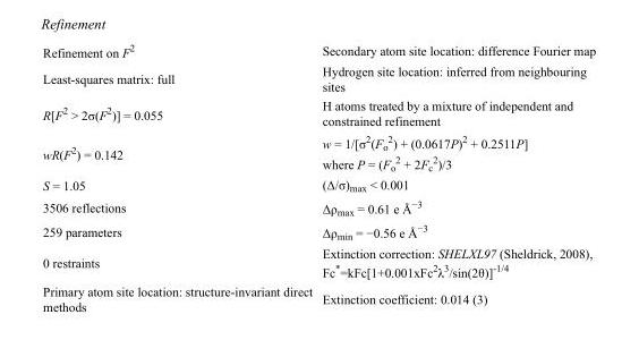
<table><tbody><tr><td>Refinement on F<sup>2</sup></td><td>Secondary atom site location: difference Fourier map</td></tr><tr><td>Least-squares matrix: full</td><td>Hydrogen site location: inferred from neighbouring sites</td></tr><tr><td>R[F<sup>2</sup> &gt; 2σ(F<sup>2</sup>)] = 0.055</td><td>H atoms treated by a mixture of independent and constrained refinement</td></tr><tr><td>wR(F<sup>2</sup>) = 0.142</td><td>w = 1/[σ<sup>2</sup>(F<sub>o</sub> <sup>2</sup>) + (0.0617P)<sup>2</sup> + 0.2511P] where P = (F<sub>o</sub> <sup>2</sup> + 2F<sub>c</sub> <sup>2</sup>)/3</td></tr><tr><td>S = 1.05</td><td>(Δ/σ)<sub>max</sub> &lt; 0.001</td></tr><tr><td>3506 reflections</td><td>Δρ<sub>max</sub> = 0.61 e Å<sup>−3</sup></td></tr><tr><td>259 parameters</td><td>Δρ<sub>min</sub> = −0.56 e Å<sup>−3</sup></td></tr><tr><td>0 restraints</td><td>Extinction correction: SHELXL97 (Sheldrick, 2008), Fc*=kFc[1+0.001xFc<sup>2</sup>λ<sup>3</sup>/sin(2θ)]<sup>-1/4</sup></td></tr><tr><td>Primary atom site location: structure-invariant direct methods</td><td>Extinction coefficient: 0.014 (3)</td></tr></tbody></table>